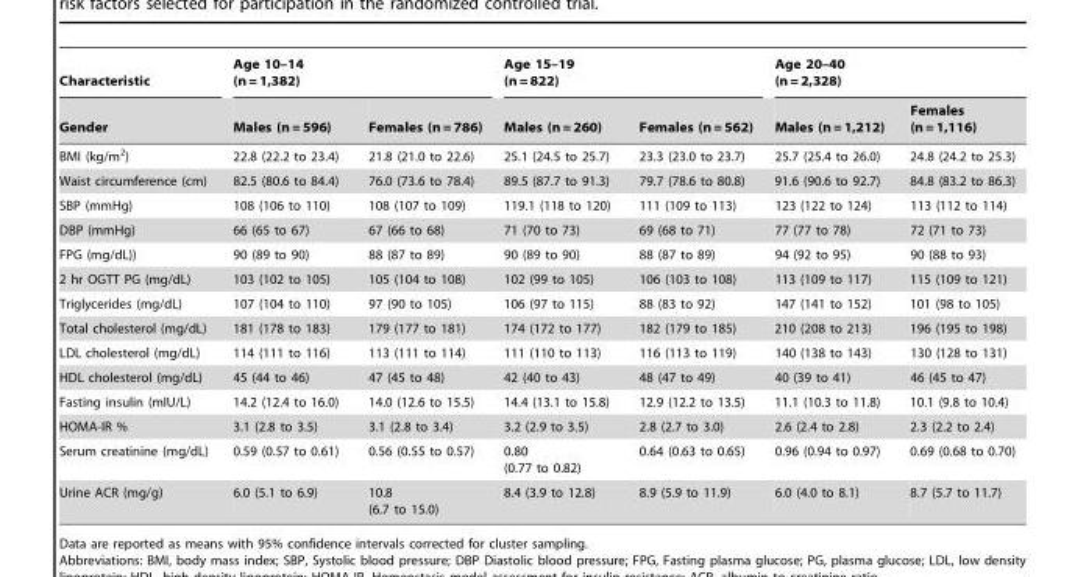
<table><thead><tr><td rowspan="2">Characteristic Gender</td><td colspan="2">Age 10–14 (n = 1,382)</td><td colspan="2">Age 15–19 (n = 822)</td><td colspan="2">Age 20–40 (n = 2,328)</td></tr><tr><td>Males (n = 596)</td><td>Females (n = 786)</td><td>Males (n = 260)</td><td>Females (n = 562)</td><td>Males (n = 1,212)</td><td>Females (n = 1,116)</td></tr></thead><tbody><tr><td>BMI (kg/m<sup>2</sup>)</td><td>22.8 (22.2 to 23.4)</td><td>21.8 (21.0 to 22.6)</td><td>25.1 (24.5 to 25.7)</td><td>23.3 (23.0 to 23.7)</td><td>25.7 (25.4 to 26.0)</td><td>24.8 (24.2 to 25.3)</td></tr><tr><td>Waist circumference (cm)</td><td>82.5 (80.6 to 84.4)</td><td>76.0 (73.6 to 78.4)</td><td>89.5 (87.7 to 91.3)</td><td>79.7 (78.6 to 80.8)</td><td>91.6 (90.6 to 92.7)</td><td>84.8 (83.2 to 86.3)</td></tr><tr><td>SBP (mmHg)</td><td>108 (106 to 110)</td><td>108 (107 to 109)</td><td>119.1 (118 to 120)</td><td>111 (109 to 113)</td><td>123 (122 to 124)</td><td>113 (112 to 114)</td></tr><tr><td>DBP (mmHg)</td><td>66 (65 to 67)</td><td>67 (66 to 68)</td><td>71 (70 to 73)</td><td>69 (68 to 71)</td><td>77 (77 to 78)</td><td>72 (71 to 73)</td></tr><tr><td>FPG (mg/dL))</td><td>90 (89 to 90)</td><td>88 (87 to 89)</td><td>90 (89 to 90)</td><td>88 (87 to 89)</td><td>94 (92 to 95)</td><td>90 (88 to 93)</td></tr><tr><td>2 hr OGTT PG (mg/dL)</td><td>103 (102 to 105)</td><td>105 (104 to 108)</td><td>102 (99 to 105)</td><td>106 (103 to 108)</td><td>113 (109 to 117)</td><td>115 (109 to 121)</td></tr><tr><td>Triglycerides (mg/dL)</td><td>107 (104 to 110)</td><td>97 (90 to 105)</td><td>106 (97 to 115)</td><td>88 (83 to 92)</td><td>147 (141 to 152)</td><td>101 (98 to 105)</td></tr><tr><td>Total cholesterol (mg/dL)</td><td>181 (178 to 183)</td><td>179 (177 to 181)</td><td>174 (172 to 177)</td><td>182 (179 to 185)</td><td>210 (208 to 213)</td><td>196 (195 to 198)</td></tr><tr><td>LDL cholesterol (mg/dL)</td><td>114 (111 to 116)</td><td>113 (111 to 114)</td><td>111 (110 to 113)</td><td>116 (113 to 119)</td><td>140 (138 to 143)</td><td>130 (128 to 131)</td></tr><tr><td>HDL cholesterol (mg/dL)</td><td>45 (44 to 46)</td><td>47 (45 to 48)</td><td>42 (40 to 43)</td><td>48 (47 to 49)</td><td>40 (39 to 41)</td><td>46 (45 to 47)</td></tr><tr><td>Fasting insulin (mIU/L)</td><td>14.2 (12.4 to 16.0)</td><td>14.0 (12.6 to 15.5)</td><td>14.4 (13.1 to 15.8)</td><td>12.9 (12.2 to 13.5)</td><td>11.1 (10.3 to 11.8)</td><td>10.1 (9.8 to 10.4)</td></tr><tr><td>HOMA-IR %</td><td>3.1 (2.8 to 3.5)</td><td>3.1 (2.8 to 3.4)</td><td>3.2 (2.9 to 3.5)</td><td>2.8 (2.7 to 3.0)</td><td>2.6 (2.4 to 2.8)</td><td>2.3 (2.2 to 2.4)</td></tr><tr><td>Serum creatinine (mg/dL)</td><td>0.59 (0.57 to 0.61)</td><td>0.56 (0.55 to 0.57)</td><td>0.80 (0.77 to 0.82)</td><td>0.64 (0.63 to 0.65)</td><td>0.96 (0.94 to 0.97)</td><td>0.69 (0.68 to 0.70)</td></tr><tr><td>Urine ACR (mg/g)</td><td>6.0 (5.1 to 6.9)</td><td>10.8 (6.7 to 15.0)</td><td>8.4 (3.9 to 12.8)</td><td>8.9 (5.9 to 11.9)</td><td>6.0 (4.0 to 8.1)</td><td>8.7 (5.7 to 11.7)</td></tr></tbody></table>